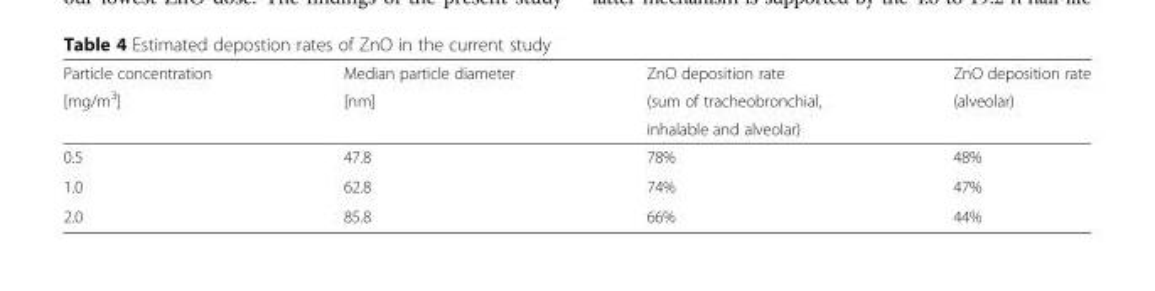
<table><thead><tr><td rowspan="3">Particle concentration [mg/m<sup>3</sup>]</td><td rowspan="3">Median particle diameter [nm]</td><td rowspan="3">ZnO deposition rate (sum of tracheobronchial, inhalable and alveolar)</td><td rowspan="3">ZnO deposition rate (alveolar)</td></tr><tr></tr><tr></tr></thead><tbody><tr><td>0.5</td><td>47.8</td><td>78%</td><td>48%</td></tr><tr><td>1.0</td><td>62.8</td><td>74%</td><td>47%</td></tr><tr><td>2.0</td><td>85.8</td><td>66%</td><td>44%</td></tr></tbody></table>